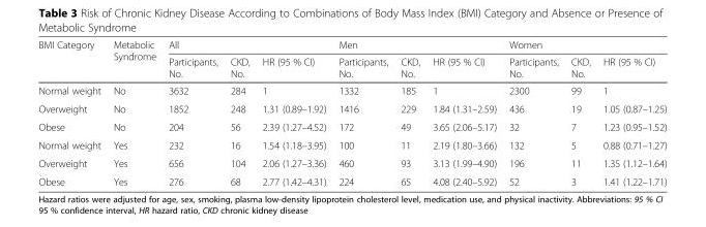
<table><thead><tr><td rowspan="2">BMI Category</td><td rowspan="2">Metabolic Syndrome</td><td colspan="3">All</td><td colspan="3">Men</td><td colspan="3">Women</td></tr><tr><td>Participants, No.</td><td>CKD, No.</td><td>HR (95 % CI)</td><td>Participants, No.</td><td>CKD, No.</td><td>HR (95 % CI)</td><td>Participants, No.</td><td>CKD, No.</td><td>HR (95 % CI)</td></tr></thead><tbody><tr><td>Normal weight</td><td>No</td><td>3632</td><td>284</td><td>1</td><td>1332</td><td>185</td><td>1</td><td>2300</td><td>99</td><td>1</td></tr><tr><td>Overweight</td><td>No</td><td>1852</td><td>248</td><td>1.31 (0.89–1.92)</td><td>1416</td><td>229</td><td>1.84 (1.31–2.59)</td><td>436</td><td>19</td><td>1.05 (0.87–1.25)</td></tr><tr><td>Obese</td><td>No</td><td>204</td><td>56</td><td>2.39 (1.27–4.52)</td><td>172</td><td>49</td><td>3.65 (2.06–5.17)</td><td>32</td><td>7</td><td>1.23 (0.95–1.52)</td></tr><tr><td>Normal weight</td><td>Yes</td><td>232</td><td>16</td><td>1.54 (1.18–3.95)</td><td>100</td><td>11</td><td>2.19 (1.80–3.66)</td><td>132</td><td>5</td><td>0.88 (0.71–1.27)</td></tr><tr><td>Overweight</td><td>Yes</td><td>656</td><td>104</td><td>2.06 (1.27–3.36)</td><td>460</td><td>93</td><td>3.13 (1.99–4.90)</td><td>196</td><td>11</td><td>1.35 (1.12–1.64)</td></tr><tr><td>Obese</td><td>Yes</td><td>276</td><td>68</td><td>2.77 (1.42–4.31)</td><td>224</td><td>65</td><td>4.08 (2.40–5.92)</td><td>52</td><td>3</td><td>1.41 (1.22–1.71)</td></tr></tbody></table>